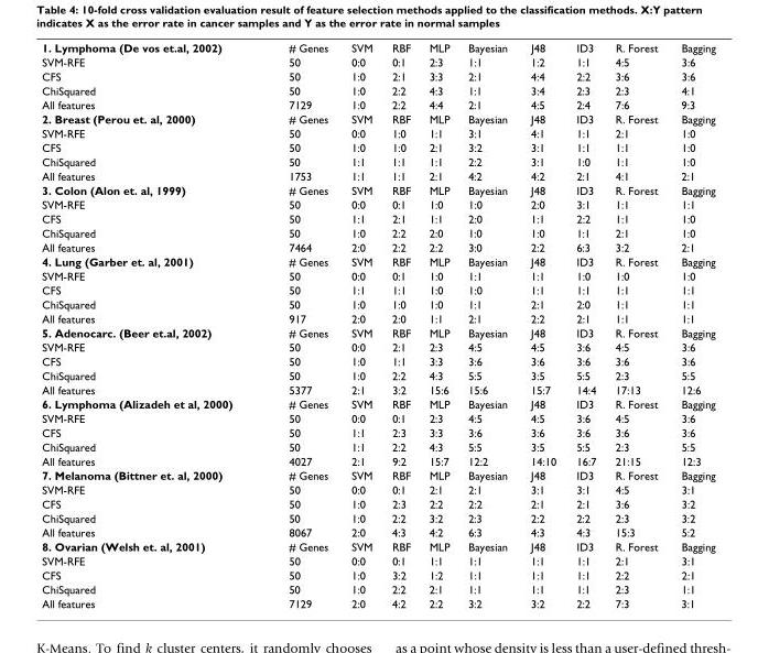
<table><tbody><tr><td>1. Lymphoma (De vos et.al, 2002)</td><td># Genes</td><td>SVM</td><td>RBF</td><td>MLP</td><td>Bayesian</td><td>J48</td><td>ID3</td><td>R. Forest</td><td>Bagging</td></tr><tr><td>SVM-RFE</td><td>50</td><td>0:0</td><td>0:1</td><td>2:3</td><td>1:1</td><td>1:2</td><td>1:1</td><td>4:5</td><td>3:6</td></tr><tr><td>CFS</td><td>50</td><td>1:0</td><td>2:1</td><td>3:3</td><td>2:1</td><td>4:4</td><td>2:2</td><td>3:6</td><td>3:6</td></tr><tr><td>ChiSquared</td><td>50</td><td>1:0</td><td>2:2</td><td>4:3</td><td>1:1</td><td>3:4</td><td>2:3</td><td>2:3</td><td>4:1</td></tr><tr><td>All features</td><td>7129</td><td>1:0</td><td>2:2</td><td>4:4</td><td>2:1</td><td>4:5</td><td>2:4</td><td>7:6</td><td>9:3</td></tr><tr><td>2. Breast (Perou et. al, 2000)</td><td># Genes</td><td>SVM</td><td>RBF</td><td>MLP</td><td>Bayesian</td><td>J48</td><td>ID3</td><td>R. Forest</td><td>Bagging</td></tr><tr><td>SVM-RFE</td><td>50</td><td>0:0</td><td>1:0</td><td>1:1</td><td>3:1</td><td>4:1</td><td>1:1</td><td>2:1</td><td>1:0</td></tr><tr><td>CFS</td><td>50</td><td>1:0</td><td>1:0</td><td>2:1</td><td>3:2</td><td>3:1</td><td>1:1</td><td>1:1</td><td>1:0</td></tr><tr><td>ChiSquared</td><td>50</td><td>1:1</td><td>1:1</td><td>1:1</td><td>2:2</td><td>3:1</td><td>1:0</td><td>1:1</td><td>1:0</td></tr><tr><td>All features</td><td>1753</td><td>1:1</td><td>1:1</td><td>2:1</td><td>4:2</td><td>4:2</td><td>2:1</td><td>4:1</td><td>2:1</td></tr><tr><td>3. Colon (Alon et. al, 1999)</td><td># Genes</td><td>SVM</td><td>RBF</td><td>MLP</td><td>Bayesian</td><td>J48</td><td>ID3</td><td>R. Forest</td><td>Bagging</td></tr><tr><td>SVM-RFE</td><td>50</td><td>0:0</td><td>0:1</td><td>1:0</td><td>1:0</td><td>2:0</td><td>3:1</td><td>1:1</td><td>1:1</td></tr><tr><td>CFS</td><td>50</td><td>1:1</td><td>2:1</td><td>1:1</td><td>2:0</td><td>1:1</td><td>2:2</td><td>1:1</td><td>1:0</td></tr><tr><td>ChiSquared</td><td>50</td><td>1:0</td><td>2:2</td><td>2:0</td><td>1:0</td><td>1:0</td><td>1:1</td><td>2:1</td><td>1:0</td></tr><tr><td>All features</td><td>7464</td><td>2:0</td><td>2:2</td><td>2:2</td><td>3:0</td><td>2:2</td><td>6:3</td><td>3:2</td><td>2:1</td></tr><tr><td>4. Lung (Garber et. al, 2001)</td><td># Genes</td><td>SVM</td><td>RBF</td><td>MLP</td><td>Bayesian</td><td>J48</td><td>ID3</td><td>R. Forest</td><td>Bagging</td></tr><tr><td>SVM-RFE</td><td>50</td><td>0:0</td><td>0:1</td><td>1:0</td><td>1:1</td><td>1:1</td><td>1:0</td><td>1:0</td><td>1:0</td></tr><tr><td>CFS</td><td>50</td><td>1:1</td><td>1:1</td><td>1:0</td><td>1:0</td><td>1:1</td><td>1:1</td><td>1:1</td><td>1:1</td></tr><tr><td>ChiSquared</td><td>50</td><td>1:0</td><td>1:0</td><td>1:0</td><td>1:1</td><td>2:1</td><td>2:0</td><td>1:1</td><td>1:1</td></tr><tr><td>All features</td><td>917</td><td>2:0</td><td>2:0</td><td>1:1</td><td>2:1</td><td>2:2</td><td>2:1</td><td>1:1</td><td>1:1</td></tr><tr><td>5. Adenocarc. (Beer et.al, 2002)</td><td># Genes</td><td>SVM</td><td>RBF</td><td>MLP</td><td>Bayesian</td><td>J48</td><td>ID3</td><td>R. Forest</td><td>Bagging</td></tr><tr><td>SVM-RFE</td><td>50</td><td>0:0</td><td>2:1</td><td>2:3</td><td>4:5</td><td>4:5</td><td>3:6</td><td>4:5</td><td>3:6</td></tr><tr><td>CFS</td><td>50</td><td>1:0</td><td>1:1</td><td>3:3</td><td>3:6</td><td>3:6</td><td>3:6</td><td>3:6</td><td>3:6</td></tr><tr><td>ChiSquared</td><td>50</td><td>1:0</td><td>2:2</td><td>4:3</td><td>5:5</td><td>3:5</td><td>5:5</td><td>2:3</td><td>5:5</td></tr><tr><td>All features</td><td>5377</td><td>2:1</td><td>3:2</td><td>15:6</td><td>15:6</td><td>15:7</td><td>14:4</td><td>17:13</td><td>12:6</td></tr><tr><td>6. Lymphoma (Alizadeh et al, 2000)</td><td># Genes</td><td>SVM</td><td>RBF</td><td>MLP</td><td>Bayesian</td><td>J48</td><td>ID3</td><td>R. Forest</td><td>Bagging</td></tr><tr><td>SVM-RFE</td><td>50</td><td>0:0</td><td>0:1</td><td>2:3</td><td>4:5</td><td>4:5</td><td>3:6</td><td>4:5</td><td>3:6</td></tr><tr><td>CFS</td><td>50</td><td>1:1</td><td>2:3</td><td>3:3</td><td>3:6</td><td>3:6</td><td>3:6</td><td>3:6</td><td>3:6</td></tr><tr><td>ChiSquared</td><td>50</td><td>1:1</td><td>2:2</td><td>4:3</td><td>5:5</td><td>3:5</td><td>5:5</td><td>2:3</td><td>5:5</td></tr><tr><td>All features</td><td>4027</td><td>2:1</td><td>9:2</td><td>15:7</td><td>12:2</td><td>14:10</td><td>16:7</td><td>21:15</td><td>12:3</td></tr><tr><td>7. Melanoma (Bittner et. al, 2000)</td><td># Genes</td><td>SVM</td><td>RBF</td><td>MLP</td><td>Bayesian</td><td>J48</td><td>ID3</td><td>R. Forest</td><td>Bagging</td></tr><tr><td>SVM-RFE</td><td>50</td><td>0:0</td><td>0:1</td><td>2:1</td><td>2:1</td><td>3:1</td><td>3:1</td><td>4:5</td><td>3:1</td></tr><tr><td>CFS</td><td>50</td><td>1:0</td><td>2:3</td><td>2:2</td><td>2:2</td><td>2:1</td><td>2:1</td><td>3:6</td><td>3:2</td></tr><tr><td>ChiSquared</td><td>50</td><td>1:0</td><td>2:2</td><td>3:2</td><td>2:3</td><td>2:2</td><td>2:2</td><td>2:3</td><td>3:2</td></tr><tr><td>All features</td><td>8067</td><td>2:0</td><td>4:3</td><td>4:2</td><td>6:3</td><td>4:3</td><td>4:3</td><td>15:3</td><td>5:2</td></tr><tr><td>8. Ovarian (Welsh et. al, 2001)</td><td># Genes</td><td>SVM</td><td>RBF</td><td>MLP</td><td>Bayesian</td><td>J48</td><td>ID3</td><td>R. Forest</td><td>Bagging</td></tr><tr><td>SVM-RFE</td><td>50</td><td>0:0</td><td>0:1</td><td>1:1</td><td>1:1</td><td>1:1</td><td>1:1</td><td>2:1</td><td>3:1</td></tr><tr><td>CFS</td><td>50</td><td>1:0</td><td>3:2</td><td>1:2</td><td>1:1</td><td>1:1</td><td>1:1</td><td>2:2</td><td>2:1</td></tr><tr><td>ChiSquared</td><td>50</td><td>1:0</td><td>2:2</td><td>2:1</td><td>1:1</td><td>1:1</td><td>1:1</td><td>2:3</td><td>1:1</td></tr><tr><td>All features</td><td>7129</td><td>2:0</td><td>4:2</td><td>2:2</td><td>3:2</td><td>3:2</td><td>2:2</td><td>7:3</td><td>3:1</td></tr></tbody></table>